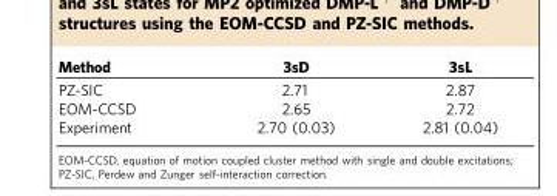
<table><thead><tr><td>Method</td><td>3sD</td><td>3sL</td></tr></thead><tbody><tr><td>PZ-SIC</td><td>2.71</td><td>2.87</td></tr><tr><td>EOM-CCSD</td><td>2.65</td><td>2.72</td></tr><tr><td>Experiment</td><td>2.70 (0.03)</td><td>2.81 (0.04)</td></tr></tbody></table>